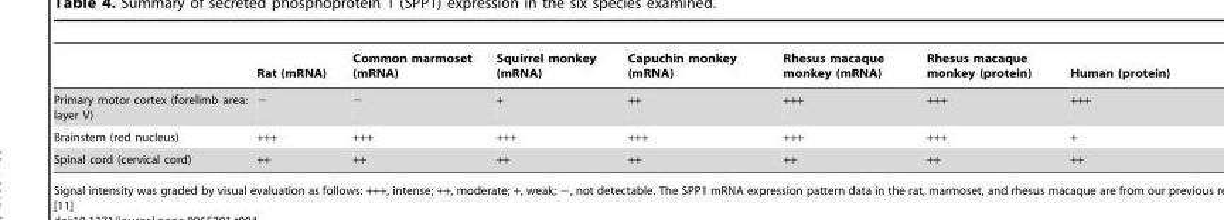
<table><thead><tr><td></td><td>Rat (mRNA)</td><td>Common marmoset (mRNA)</td><td>Squirrel monkey (mRNA)</td><td>Capuchin monkey (mRNA)</td><td>Rhesus macaque monkey (mRNA)</td><td>Rhesus macaque monkey (protein)</td><td>Human (protein)</td></tr></thead><tbody><tr><td>Primary motor cortex (forelimb area: layer V)</td><td>−</td><td>−</td><td>+</td><td>++</td><td>+++</td><td>+++</td><td>+++</td></tr><tr><td>Brainstem (red nucleus)</td><td>+++</td><td>+++</td><td>+++</td><td>+++</td><td>+++</td><td>+++</td><td>+</td></tr><tr><td>Spinal cord (cervical cord)</td><td>++</td><td>++</td><td>++</td><td>++</td><td>++</td><td>++</td><td>++</td></tr></tbody></table>